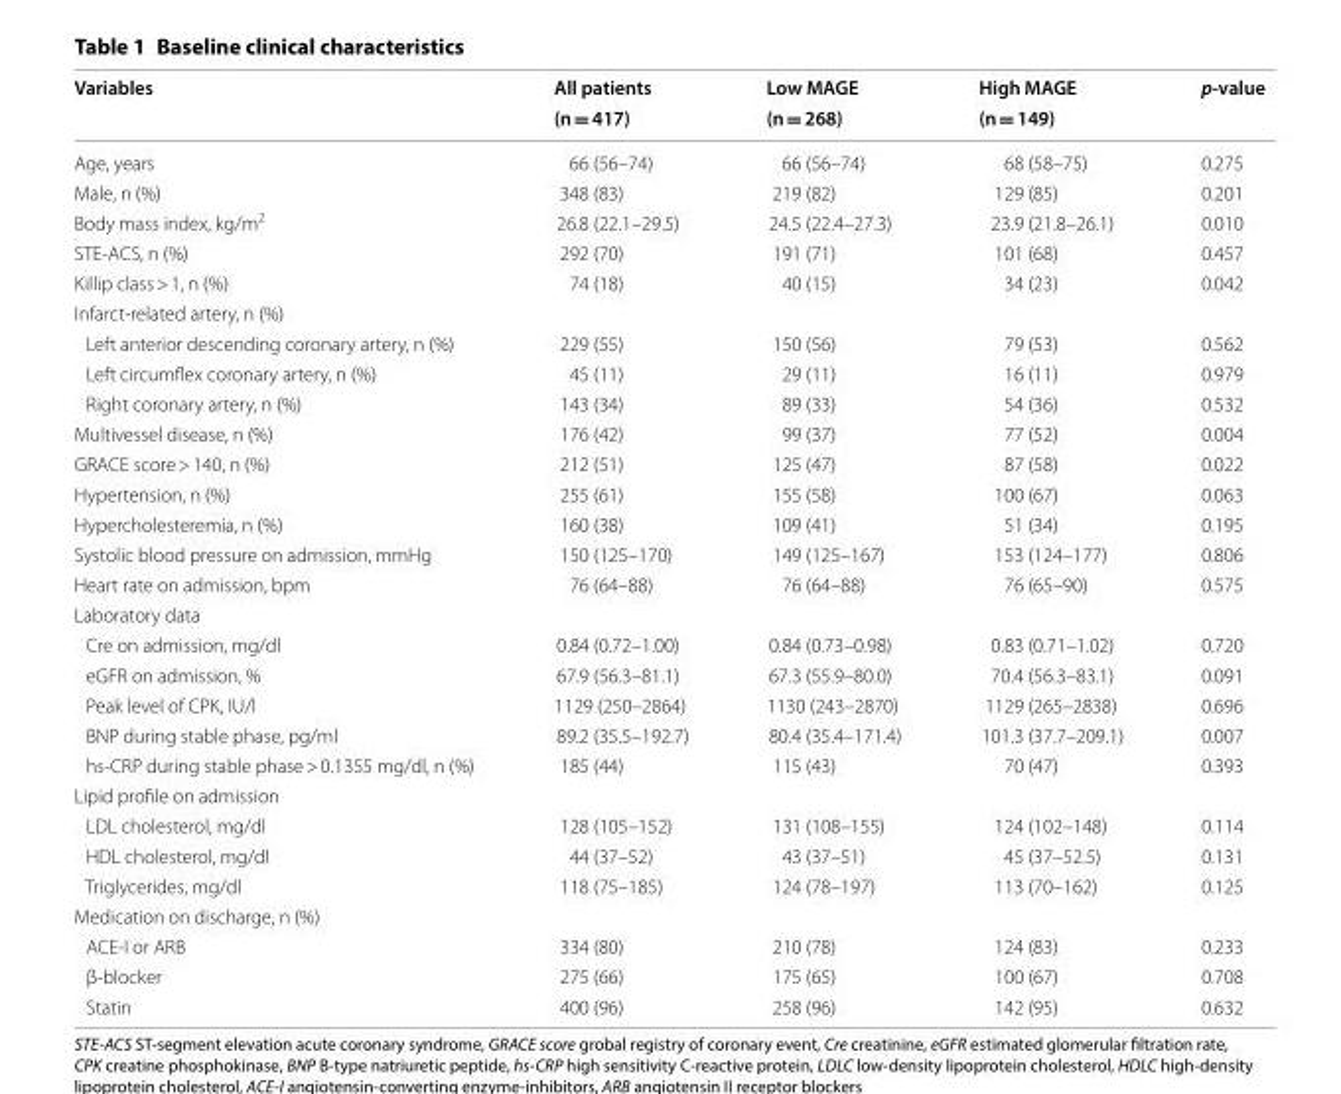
<table><thead><tr><td rowspan="2">Variables</td><td rowspan="2">All patients (n = 417)</td><td rowspan="2">Low MAGE (n = 268)</td><td rowspan="2">High MAGE (n = 149)</td><td rowspan="2">p‑value</td></tr><tr></tr></thead><tbody><tr><td>Age, years</td><td>66 (56–74)</td><td>66 (56–74)</td><td>68 (58–75)</td><td>0.275</td></tr><tr><td>Male, n (%)</td><td>348 (83)</td><td>219 (82)</td><td>129 (85)</td><td>0.201</td></tr><tr><td>Body mass index, kg/m<sup>2</sup></td><td>26.8 (22.1–29.5)</td><td>24.5 (22.4–27.3)</td><td>23.9 (21.8–26.1)</td><td>0.010</td></tr><tr><td>STE-ACS, n (%)</td><td>292 (70)</td><td>191 (71)</td><td>101 (68)</td><td>0.457</td></tr><tr><td>Killip class &gt; 1, n (%)</td><td>74 (18)</td><td>40 (15)</td><td>34 (23)</td><td>0.042</td></tr><tr><td colspan="5">Infarct-related artery, n (%)</td></tr><tr><td>Left anterior descending coronary artery, n (%)</td><td>229 (55)</td><td>150 (56)</td><td>79 (53)</td><td>0.562</td></tr><tr><td>Left circumflex coronary artery, n (%)</td><td>45 (11)</td><td>29 (11)</td><td>16 (11)</td><td>0.979</td></tr><tr><td>Right coronary artery, n (%)</td><td>143 (34)</td><td>89 (33)</td><td>54 (36)</td><td>0.532</td></tr><tr><td>Multivessel disease, n (%)</td><td>176 (42)</td><td>99 (37)</td><td>77 (52)</td><td>0.004</td></tr><tr><td>GRACE score &gt; 140, n (%)</td><td>212 (51)</td><td>125 (47)</td><td>87 (58)</td><td>0.022</td></tr><tr><td>Hypertension, n (%)</td><td>255 (61)</td><td>155 (58)</td><td>100 (67)</td><td>0.063</td></tr><tr><td>Hypercholesteremia, n (%)</td><td>160 (38)</td><td>109 (41)</td><td>51 (34)</td><td>0.195</td></tr><tr><td>Systolic blood pressure on admission, mmHg</td><td>150 (125–170)</td><td>149 (125–167)</td><td>153 (124–177)</td><td>0.806</td></tr><tr><td>Heart rate on admission, bpm</td><td>76 (64–88)</td><td>76 (64–88)</td><td>76 (65–90)</td><td>0.575</td></tr><tr><td colspan="5">Laboratory data</td></tr><tr><td>Cre on admission, mg/dl</td><td>0.84 (0.72–1.00)</td><td>0.84 (0.73–0.98)</td><td>0.83 (0.71–1.02)</td><td>0.720</td></tr><tr><td>eGFR on admission, %</td><td>67.9 (56.3–81.1)</td><td>67.3 (55.9–80.0)</td><td>70.4 (56.3–83.1)</td><td>0.091</td></tr><tr><td>Peak level of CPK, IU/l</td><td>1129 (250–2864)</td><td>1130 (243–2870)</td><td>1129 (265–2838)</td><td>0.696</td></tr><tr><td>BNP during stable phase, pg/ml</td><td>89.2 (35.5–192.7)</td><td>80.4 (35.4–171.4)</td><td>101.3 (37.7–209.1)</td><td>0.007</td></tr><tr><td>hs-CRP during stable phase &gt; 0.1355 mg/dl, n (%)</td><td>185 (44)</td><td>115 (43)</td><td>70 (47)</td><td>0.393</td></tr><tr><td colspan="5">Lipid profile on admission</td></tr><tr><td>LDL cholesterol, mg/dl</td><td>128 (105–152)</td><td>131 (108–155)</td><td>124 (102–148)</td><td>0.114</td></tr><tr><td>HDL cholesterol, mg/dl</td><td>44 (37–52)</td><td>43 (37–51)</td><td>45 (37–52.5)</td><td>0.131</td></tr><tr><td>Triglycerides, mg/dl</td><td>118 (75–185)</td><td>124 (78–197)</td><td>113 (70–162)</td><td>0.125</td></tr><tr><td colspan="5">Medication on discharge, n (%)</td></tr><tr><td>ACE-I or ARB</td><td>334 (80)</td><td>210 (78)</td><td>124 (83)</td><td>0.233</td></tr><tr><td>β-blocker</td><td>275 (66)</td><td>175 (65)</td><td>100 (67)</td><td>0.708</td></tr><tr><td>Statin</td><td>400 (96)</td><td>258 (96)</td><td>142 (95)</td><td>0.632</td></tr></tbody></table>